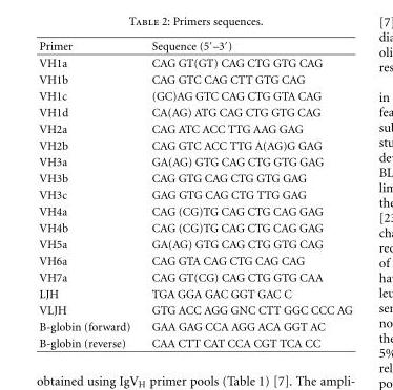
<table><thead><tr><td>Primer</td><td>Sequence (5′–3′)</td></tr></thead><tbody><tr><td>VH1a</td><td>CAG GT(GT) CAG CTG GTG CAG</td></tr><tr><td>VH1b</td><td>CAG GTC CAG CTT GTG CAG</td></tr><tr><td>VH1c</td><td>(GC)AG GTC CAG CTG GTA CAG</td></tr><tr><td>VH1d</td><td>CA(AG) ATG CAG CTG GTG CAG</td></tr><tr><td>VH2a</td><td>CAG ATC ACC TTG AAG GAG</td></tr><tr><td>VH2b</td><td>CAG GTC ACC TTG A(AG)G GAG</td></tr><tr><td>VH3a</td><td>GA(AG) GTG CAG CTG GTG GAG</td></tr><tr><td>VH3b</td><td>CAG GTG CAG CTG GTG GAG</td></tr><tr><td>VH3c</td><td>GAG GTG CAG CTG TTG GAG</td></tr><tr><td>VH4a</td><td>CAG (CG)TG CAG CTG CAG GAG</td></tr><tr><td>VH4b</td><td>CAG (CG)TG CAG CTG CAG GAG</td></tr><tr><td>VH5a</td><td>GA(AG) GTG CAG CTG GTG CAG</td></tr><tr><td>VH6a</td><td>CAG GTA CAG CTG CAG CAG</td></tr><tr><td>VH7a</td><td>CAG GT(CG) CAG CTG GTG CAA</td></tr><tr><td>LJH</td><td>TGA GGA GAC GGT GAC C</td></tr><tr><td>VLJH</td><td>GTG ACC AGG GNC CTT GGC CCC AG</td></tr><tr><td>B-globin (forward)</td><td>GAA GAG CCA AGG ACA GGT AC</td></tr><tr><td>B-globin (reverse)</td><td>CAA CTT CAT CCA CGT TCA CC</td></tr></tbody></table>